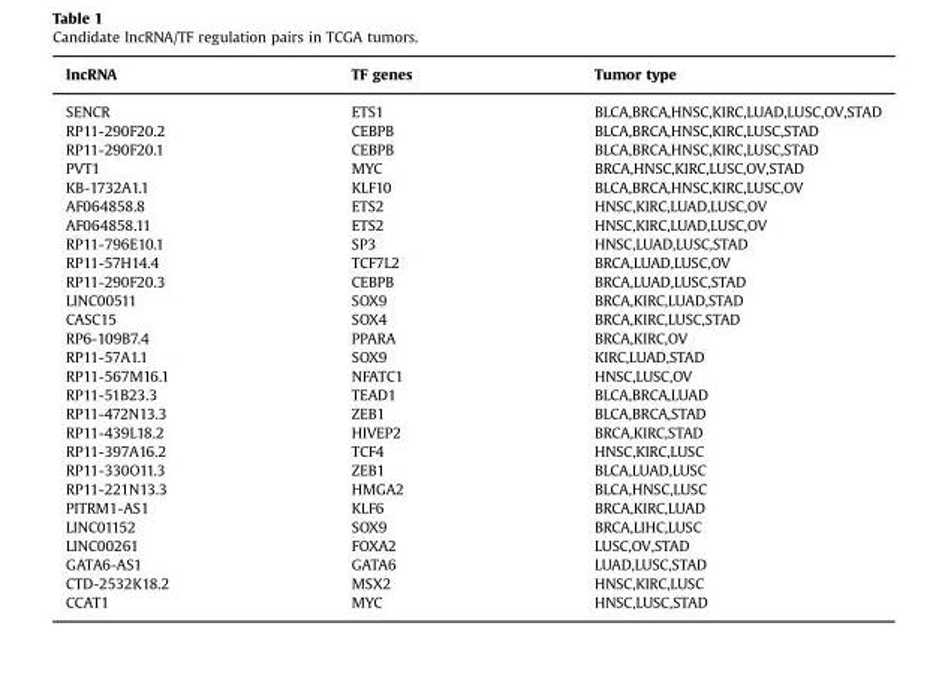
<table><thead><tr><td>lncRNA</td><td>TF genes</td><td>Tumor type</td></tr></thead><tbody><tr><td>SENCR</td><td>ETS1</td><td>BLCA,BRCA,HNSC,KIRC,LUAD,LUSC,OV,STAD</td></tr><tr><td>RP11-290F20.2</td><td>CEBPB</td><td>BLCA,BRCA,HNSC,KIRC,LUSC,STAD</td></tr><tr><td>RP11-290F20.1</td><td>CEBPB</td><td>BLCA,BRCA,HNSC,KIRC,LUSC,STAD</td></tr><tr><td>PVT1</td><td>MYC</td><td>BRCA,HNSC,KIRC,LUSC,OV,STAD</td></tr><tr><td>KB-1732A1.1</td><td>KLF10</td><td>BLCA,BRCA,HNSC,KIRC,LUSC,OV</td></tr><tr><td>AF064858.8</td><td>ETS2</td><td>HNSC,KIRC,LUAD,LUSC,OV</td></tr><tr><td>AF064858.11</td><td>ETS2</td><td>HNSC,KIRC,LUAD,LUSC,OV</td></tr><tr><td>RP11-796E10.1</td><td>SP3</td><td>HNSC,LUAD,LUSC,STAD</td></tr><tr><td>RP11-57H14.4</td><td>TCF7L2</td><td>BRCA,LUAD,LUSC,OV</td></tr><tr><td>RP11-290F20.3</td><td>CEBPB</td><td>BRCA,LUAD,LUSC,STAD</td></tr><tr><td>LINC00511</td><td>SOX9</td><td>BRCA,KIRC,LUAD,STAD</td></tr><tr><td>CASC15</td><td>SOX4</td><td>BRCA,KIRC,LUSC,STAD</td></tr><tr><td>RP6-109B7.4</td><td>PPARA</td><td>BRCA,KIRC,OV</td></tr><tr><td>RP11-57A1.1</td><td>SOX9</td><td>KIRC,LUAD,STAD</td></tr><tr><td>RP11-567M16.1</td><td>NFATC1</td><td>HNSC,LUSC,OV</td></tr><tr><td>RP11-51B23.3</td><td>TEAD1</td><td>BLCA,BRCA,LUAD</td></tr><tr><td>RP11-472N13.3</td><td>ZEB1</td><td>BLCA,BRCA,STAD</td></tr><tr><td>RP11-439L18.2</td><td>HIVEP2</td><td>BRCA,KIRC,STAD</td></tr><tr><td>RP11-397A16.2</td><td>TCF4</td><td>HNSC,KIRC,LUSC</td></tr><tr><td>RP11-330O11.3</td><td>ZEB1</td><td>BLCA,LUAD,LUSC</td></tr><tr><td>RP11-221N13.3</td><td>HMGA2</td><td>BLCA,HNSC,LUSC</td></tr><tr><td>PITRM1-AS1</td><td>KLF6</td><td>BRCA,KIRC,LUAD</td></tr><tr><td>LINC01152</td><td>SOX9</td><td>BRCA,LIHC,LUSC</td></tr><tr><td>LINC00261</td><td>FOXA2</td><td>LUSC,OV,STAD</td></tr><tr><td>GATA6-AS1</td><td>GATA6</td><td>LUAD,LUSC,STAD</td></tr><tr><td>CTD-2532K18.2</td><td>MSX2</td><td>HNSC,KIRC,LUSC</td></tr><tr><td>CCAT1</td><td>MYC</td><td>HNSC,LUSC,STAD</td></tr></tbody></table>